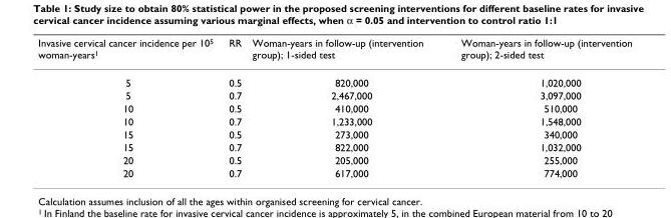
<table><thead><tr><td>Invasive cervical cancer incidence per 105 woman-years1</td><td>RR</td><td>Woman-years in follow-up (intervention group); 1-sided test</td><td>Woman-years in follow-up (intervention group); 2-sided test</td></tr></thead><tbody><tr><td>5</td><td>0.5</td><td>820,000</td><td>1,020,000</td></tr><tr><td>5</td><td>0.7</td><td>2,467,000</td><td>3,097,000</td></tr><tr><td>10</td><td>0.5</td><td>410,000</td><td>510,000</td></tr><tr><td>10</td><td>0.7</td><td>1,233,000</td><td>1,548,000</td></tr><tr><td>15</td><td>0.5</td><td>273,000</td><td>340,000</td></tr><tr><td>15</td><td>0.7</td><td>822,000</td><td>1,032,000</td></tr><tr><td>20</td><td>0.5</td><td>205,000</td><td>255,000</td></tr><tr><td>20</td><td>0.7</td><td>617,000</td><td>774,000</td></tr></tbody></table>